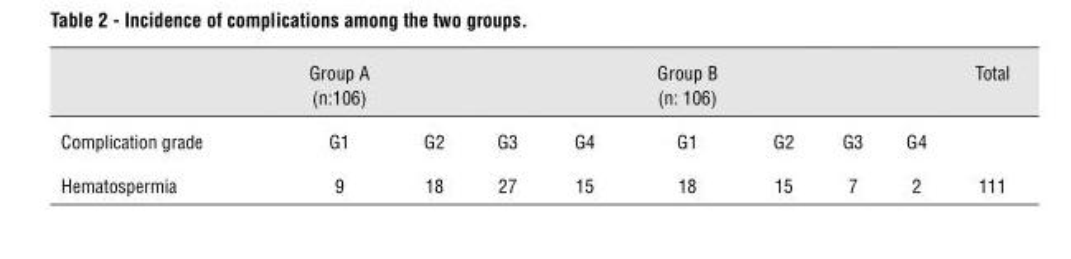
<table><thead><tr><td></td><td>Group A (n:106)</td><td></td><td></td><td></td><td>Group B (n: 106)</td><td></td><td></td><td></td><td>Total</td></tr></thead><tbody><tr><td>Complication grade</td><td>G1</td><td>G2</td><td>G3</td><td>G4</td><td>G1</td><td>G2</td><td>G3</td><td>G4</td><td></td></tr><tr><td>Hematospermia</td><td>9</td><td>18</td><td>27</td><td>15</td><td>18</td><td>15</td><td>7</td><td>2</td><td>111</td></tr></tbody></table>